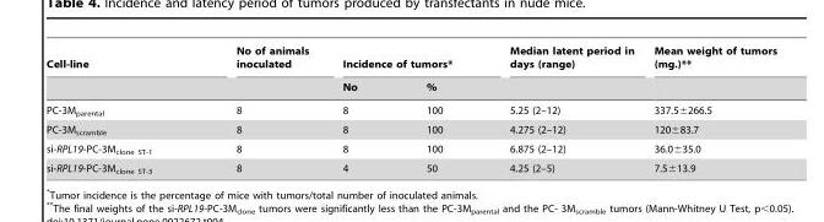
<table><thead><tr><td rowspan="2">Cell-line</td><td rowspan="2">No of animals inoculated</td><td colspan="2">Incidence of tumors*</td><td rowspan="2">Median latent period in days (range)</td><td rowspan="2">Mean weight of tumors (mg.)**</td></tr><tr><td>No</td><td>%</td></tr></thead><tbody><tr><td>PC-3M<sub>parental</sub></td><td>8</td><td>8</td><td>100</td><td>5.25 (2–12)</td><td>337.5±266.5</td></tr><tr><td>PC-3M<sub>scramble</sub></td><td>8</td><td>8</td><td>100</td><td>4.275 (2–12)</td><td>120±83.7</td></tr><tr><td>si-RPL19-PC-3M<sub>clone ST-1</sub></td><td>8</td><td>8</td><td>100</td><td>6.875 (2–12)</td><td>36.0±35.0</td></tr><tr><td>si-RPL19-PC-3M<sub>clone ST-3</sub></td><td>8</td><td>4</td><td>50</td><td>4.25 (2–5)</td><td>7.5±13.9</td></tr></tbody></table>